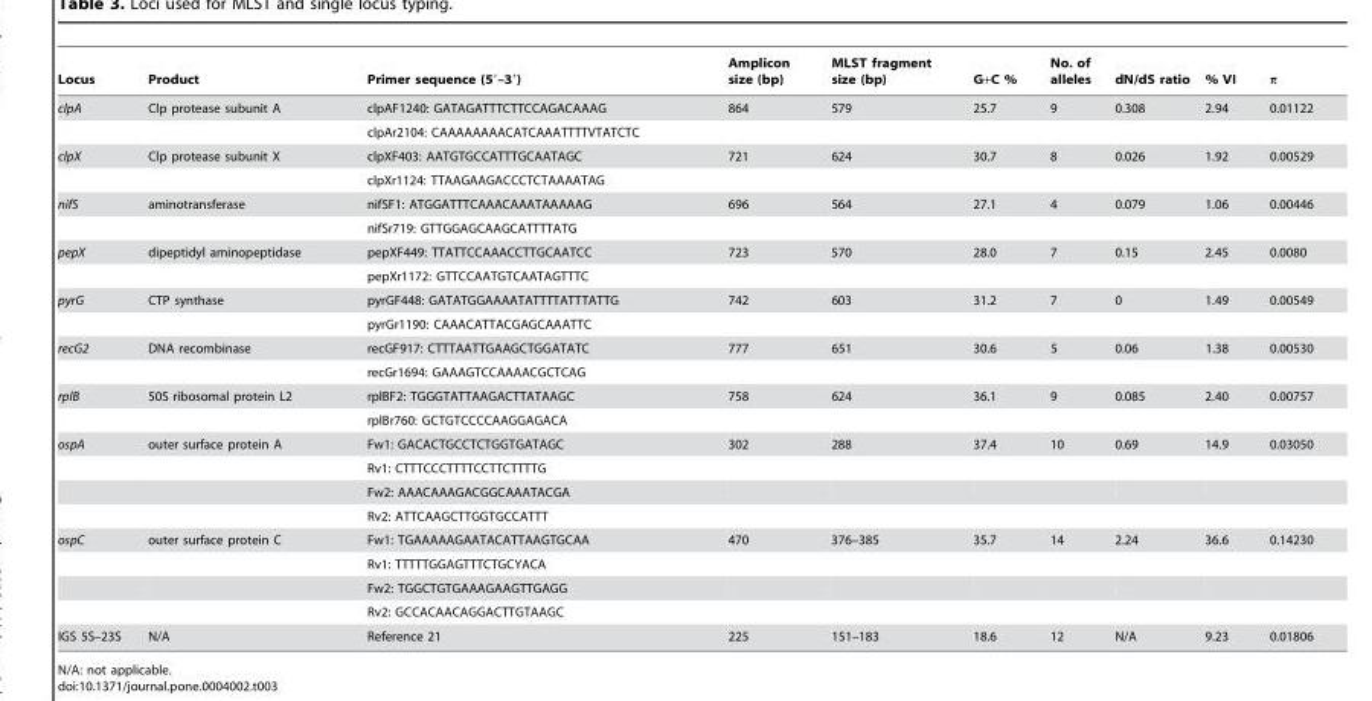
<table><thead><tr><td>Locus</td><td>Product</td><td>Primer sequence (5′–3′)</td><td>Amplicon size (bp)</td><td>MLST fragment size (bp)</td><td>G+C %</td><td>No. of alleles</td><td>dN/dS ratio</td><td>% VI</td><td>π</td></tr></thead><tbody><tr><td rowspan="2">clpA</td><td>Clp protease subunit A</td><td>clpAF1240: GATAGATTTCTTCCAGACAAAG</td><td>864</td><td>579</td><td>25.7</td><td>9</td><td>0.308</td><td>2.94</td><td>0.01122</td></tr><tr><td></td><td>clpAr2104: CAAAAAAAACATCAAATTTTVTATCTC</td><td></td><td></td><td></td><td></td><td></td><td></td><td></td></tr><tr><td rowspan="2">clpX</td><td>Clp protease subunit X</td><td>clpXF403: AATGTGCCATTTGCAATAGC</td><td>721</td><td>624</td><td>30.7</td><td>8</td><td>0.026</td><td>1.92</td><td>0.00529</td></tr><tr><td></td><td>clpXr1124: TTAAGAAGACCCTCTAAAATAG</td><td></td><td></td><td></td><td></td><td></td><td></td><td></td></tr><tr><td rowspan="2">nifS</td><td>aminotransferase</td><td>nifSF1: ATGGATTTCAAACAAATAAAAAG</td><td>696</td><td>564</td><td>27.1</td><td>4</td><td>0.079</td><td>1.06</td><td>0.00446</td></tr><tr><td></td><td>nifSr719: GTTGGAGCAAGCATTTTATG</td><td></td><td></td><td></td><td></td><td></td><td></td><td></td></tr><tr><td rowspan="2">pepX</td><td>dipeptidyl aminopeptidase</td><td>pepXF449: TTATTCCAAACCTTGCAATCC</td><td>723</td><td>570</td><td>28.0</td><td>7</td><td>0.15</td><td>2.45</td><td>0.0080</td></tr><tr><td></td><td>pepXr1172: GTTCCAATGTCAATAGTTTC</td><td></td><td></td><td></td><td></td><td></td><td></td><td></td></tr><tr><td rowspan="2">pyrG</td><td>CTP synthase</td><td>pyrGF448: GATATGGAAAATATTTTATTTATTG</td><td>742</td><td>603</td><td>31.2</td><td>7</td><td>0</td><td>1.49</td><td>0.00549</td></tr><tr><td></td><td>pyrGr1190: CAAACATTACGAGCAAATTC</td><td></td><td></td><td></td><td></td><td></td><td></td><td></td></tr><tr><td rowspan="2">recG2</td><td>DNA recombinase</td><td>recGF917: CTTTAATTGAAGCTGGATATC</td><td>777</td><td>651</td><td>30.6</td><td>5</td><td>0.06</td><td>1.38</td><td>0.00530</td></tr><tr><td></td><td>recGr1694: GAAAGTCCAAAACGCTCAG</td><td></td><td></td><td></td><td></td><td></td><td></td><td></td></tr><tr><td rowspan="2">rplB</td><td>50S ribosomal protein L2</td><td>rplBF2: TGGGTATTAAGACTTATAAGC</td><td>758</td><td>624</td><td>36.1</td><td>9</td><td>0.085</td><td>2.40</td><td>0.00757</td></tr><tr><td></td><td>rplBr760: GCTGTCCCCAAGGAGACA</td><td></td><td></td><td></td><td></td><td></td><td></td><td></td></tr><tr><td rowspan="4">ospA</td><td>outer surface protein A</td><td>Fw1: GACACTGCCTCTGGTGATAGC</td><td>302</td><td>288</td><td>37.4</td><td>10</td><td>0.69</td><td>14.9</td><td>0.03050</td></tr><tr><td></td><td>Rv1: CTTTCCCTTTTCCTTCTTTTG</td><td></td><td></td><td></td><td></td><td></td><td></td><td></td></tr><tr><td></td><td>Fw2: AAACAAAGACGGCAAATACGA</td><td></td><td></td><td></td><td></td><td></td><td></td><td></td></tr><tr><td></td><td>Rv2: ATTCAAGCTTGGTGCCATTT</td><td></td><td></td><td></td><td></td><td></td><td></td><td></td></tr><tr><td rowspan="4">ospC</td><td>outer surface protein C</td><td>Fw1: TGAAAAAGAATACATTAAGTGCAA</td><td>470</td><td>376–385</td><td>35.7</td><td>14</td><td>2.24</td><td>36.6</td><td>0.14230</td></tr><tr><td></td><td>Rv1: TTTTTGGAGTTTCTGCYACA</td><td></td><td></td><td></td><td></td><td></td><td></td><td></td></tr><tr><td></td><td>Fw2: TGGCTGTGAAAGAAGTTGAGG</td><td></td><td></td><td></td><td></td><td></td><td></td><td></td></tr><tr><td></td><td>Rv2: GCCACAACAGGACTTGTAAGC</td><td></td><td></td><td></td><td></td><td></td><td></td><td></td></tr><tr><td>IGS 5S–23S</td><td>N/A</td><td>Reference 21</td><td>225</td><td>151–183</td><td>18.6</td><td>12</td><td>N/A</td><td>9.23</td><td>0.01806</td></tr></tbody></table>